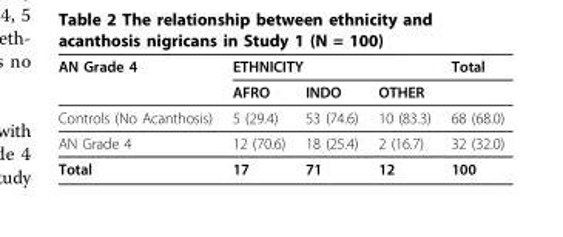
<table><thead><tr><td rowspan="2">AN Grade 4</td><td colspan="3">ETHNICITY</td><td rowspan="2">Total</td></tr><tr><td>AFRO</td><td>INDO</td><td>OTHER</td></tr></thead><tbody><tr><td>Controls (No Acanthosis)</td><td>5 (29.4)</td><td>53 (74.6)</td><td>10 (83.3)</td><td>68 (68.0)</td></tr><tr><td>AN Grade 4</td><td>12 (70.6)</td><td>18 (25.4)</td><td>2 (16.7)</td><td>32 (32.0)</td></tr><tr><td>Total</td><td>17</td><td>71</td><td>12</td><td>100</td></tr></tbody></table>